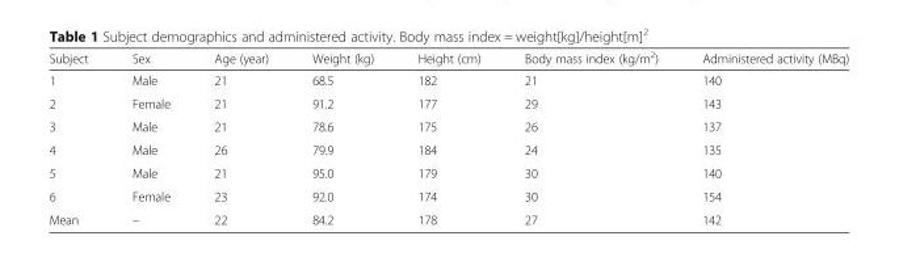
<table><thead><tr><td>Subject</td><td>Sex</td><td>Age (year)</td><td>Weight (kg)</td><td>Height (cm)</td><td>Body mass index (kg/m<sup>2</sup>)</td><td>Administered activity (MBq)</td></tr></thead><tbody><tr><td>1</td><td>Male</td><td>21</td><td>68.5</td><td>182</td><td>21</td><td>140</td></tr><tr><td>2</td><td>Female</td><td>21</td><td>91.2</td><td>177</td><td>29</td><td>143</td></tr><tr><td>3</td><td>Male</td><td>21</td><td>78.6</td><td>175</td><td>26</td><td>137</td></tr><tr><td>4</td><td>Male</td><td>26</td><td>79.9</td><td>184</td><td>24</td><td>135</td></tr><tr><td>5</td><td>Male</td><td>21</td><td>95.0</td><td>179</td><td>30</td><td>140</td></tr><tr><td>6</td><td>Female</td><td>23</td><td>92.0</td><td>174</td><td>30</td><td>154</td></tr><tr><td>Mean</td><td>–</td><td>22</td><td>84.2</td><td>178</td><td>27</td><td>142</td></tr></tbody></table>